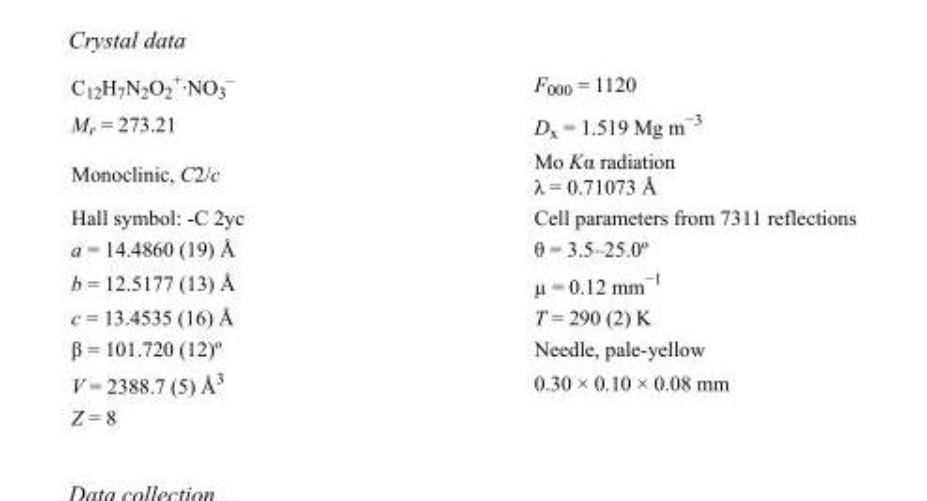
<table><tbody><tr><td>C<sub>12</sub>H<sub>7</sub>N<sub>2</sub>O<sub>2</sub> <sup>+</sup>·NO<sub>3</sub> <sup>–</sup></td><td>F<sub>000</sub> = 1120</td></tr><tr><td>M<sub>r</sub> = 273.21</td><td>D<sub>x</sub> = 1.519 Mg m<sup>−3</sup></td></tr><tr><td>Monoclinic, C2/c</td><td>Mo Kα radiation λ = 0.71073 Å</td></tr><tr><td>Hall symbol: -C 2yc</td><td>Cell parameters from 7311 reflections</td></tr><tr><td>a = 14.4860 (19) Å</td><td>θ = 3.5–25.0º</td></tr><tr><td>b = 12.5177 (13) Å</td><td>µ = 0.12 mm<sup>−1</sup></td></tr><tr><td>c = 13.4535 (16) Å</td><td>T = 290 (2) K</td></tr><tr><td>β = 101.720 (12)º</td><td>Needle, pale-yellow</td></tr><tr><td>V = 2388.7 (5) Å<sup>3</sup></td><td>0.30 × 0.10 × 0.08 mm</td></tr><tr><td>Z = 8</td><td></td></tr></tbody></table>